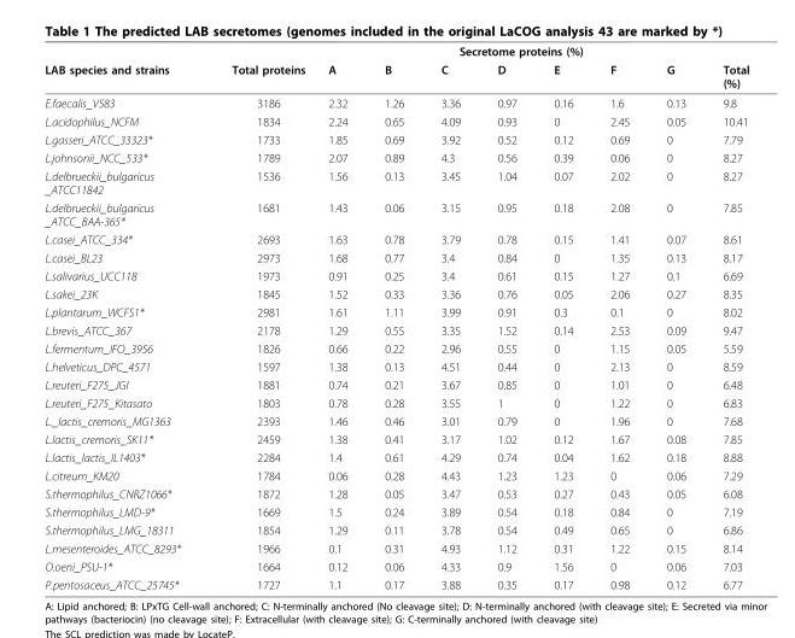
<table><thead><tr><td rowspan="2">LAB species and strains</td><td rowspan="2">Total proteins</td><td colspan="7">Secretome proteins (%)</td><td rowspan="2">Total (%)</td></tr><tr><td>A</td><td>B</td><td>C</td><td>D</td><td>E</td><td>F</td><td>G</td></tr></thead><tbody><tr><td>E.faecalis_V583</td><td>3186</td><td>2.32</td><td>1.26</td><td>3.36</td><td>0.97</td><td>0.16</td><td>1.6</td><td>0.13</td><td>9.8</td></tr><tr><td>L.acidophilus_NCFM</td><td>1834</td><td>2.24</td><td>0.65</td><td>4.09</td><td>0.93</td><td>0</td><td>2.45</td><td>0.05</td><td>10.41</td></tr><tr><td>L.gasseri_ATCC_33323*</td><td>1733</td><td>1.85</td><td>0.69</td><td>3.92</td><td>0.52</td><td>0.12</td><td>0.69</td><td>0</td><td>7.79</td></tr><tr><td>L.johnsonii_NCC_533*</td><td>1789</td><td>2.07</td><td>0.89</td><td>4.3</td><td>0.56</td><td>0.39</td><td>0.06</td><td>0</td><td>8.27</td></tr><tr><td>L.delbrueckii_bulgaricus _ATCC11842</td><td>1536</td><td>1.56</td><td>0.13</td><td>3.45</td><td>1.04</td><td>0.07</td><td>2.02</td><td>0</td><td>8.27</td></tr><tr><td>L.delbrueckii_bulgaricus _ATCC_BAA-365*</td><td>1681</td><td>1.43</td><td>0.06</td><td>3.15</td><td>0.95</td><td>0.18</td><td>2.08</td><td>0</td><td>7.85</td></tr><tr><td>L.casei_ATCC_334*</td><td>2693</td><td>1.63</td><td>0.78</td><td>3.79</td><td>0.78</td><td>0.15</td><td>1.41</td><td>0.07</td><td>8.61</td></tr><tr><td>L.casei_BL23</td><td>2973</td><td>1.68</td><td>0.77</td><td>3.4</td><td>0.84</td><td>0</td><td>1.35</td><td>0.13</td><td>8.17</td></tr><tr><td>L.salivarius_UCC118</td><td>1973</td><td>0.91</td><td>0.25</td><td>3.4</td><td>0.61</td><td>0.15</td><td>1.27</td><td>0.1</td><td>6.69</td></tr><tr><td>L.sakei_23K</td><td>1845</td><td>1.52</td><td>0.33</td><td>3.36</td><td>0.76</td><td>0.05</td><td>2.06</td><td>0.27</td><td>8.35</td></tr><tr><td>L.plantarum_WCFS1*</td><td>2981</td><td>1.61</td><td>1.11</td><td>3.99</td><td>0.91</td><td>0.3</td><td>0.1</td><td>0</td><td>8.02</td></tr><tr><td>L.brevis_ATCC_367</td><td>2178</td><td>1.29</td><td>0.55</td><td>3.35</td><td>1.52</td><td>0.14</td><td>2.53</td><td>0.09</td><td>9.47</td></tr><tr><td>L.fermentum_IFO_3956</td><td>1826</td><td>0.66</td><td>0.22</td><td>2.96</td><td>0.55</td><td>0</td><td>1.15</td><td>0.05</td><td>5.59</td></tr><tr><td>L.helveticus_DPC_4571</td><td>1597</td><td>1.38</td><td>0.13</td><td>4.51</td><td>0.44</td><td>0</td><td>2.13</td><td>0</td><td>8.59</td></tr><tr><td>L.reuteri_F275_JGI</td><td>1881</td><td>0.74</td><td>0.21</td><td>3.67</td><td>0.85</td><td>0</td><td>1.01</td><td>0</td><td>6.48</td></tr><tr><td>L.reuteri_F275_Kitasato</td><td>1803</td><td>0.78</td><td>0.28</td><td>3.55</td><td>1</td><td>0</td><td>1.22</td><td>0</td><td>6.83</td></tr><tr><td>L._lactis_cremoris_MG1363</td><td>2393</td><td>1.46</td><td>0.46</td><td>3.01</td><td>0.79</td><td>0</td><td>1.96</td><td>0</td><td>7.68</td></tr><tr><td>L.lactis_cremoris_SK11*</td><td>2459</td><td>1.38</td><td>0.41</td><td>3.17</td><td>1.02</td><td>0.12</td><td>1.67</td><td>0.08</td><td>7.85</td></tr><tr><td>L.lactis_lactis_IL1403*</td><td>2284</td><td>1.4</td><td>0.61</td><td>4.29</td><td>0.74</td><td>0.04</td><td>1.62</td><td>0.18</td><td>8.88</td></tr><tr><td>L.citreum_KM20</td><td>1784</td><td>0.06</td><td>0.28</td><td>4.43</td><td>1.23</td><td>1.23</td><td>0</td><td>0.06</td><td>7.29</td></tr><tr><td>S.thermophilus_CNRZ1066*</td><td>1872</td><td>1.28</td><td>0.05</td><td>3.47</td><td>0.53</td><td>0.27</td><td>0.43</td><td>0.05</td><td>6.08</td></tr><tr><td>S.thermophilus_LMD-9*</td><td>1669</td><td>1.5</td><td>0.24</td><td>3.89</td><td>0.54</td><td>0.18</td><td>0.84</td><td>0</td><td>7.19</td></tr><tr><td>S.thermophilus_LMG_18311</td><td>1854</td><td>1.29</td><td>0.11</td><td>3.78</td><td>0.54</td><td>0.49</td><td>0.65</td><td>0</td><td>6.86</td></tr><tr><td>L.mesenteroides_ATCC_8293*</td><td>1966</td><td>0.1</td><td>0.31</td><td>4.93</td><td>1.12</td><td>0.31</td><td>1.22</td><td>0.15</td><td>8.14</td></tr><tr><td>O.oeni_PSU-1*</td><td>1664</td><td>0.12</td><td>0.06</td><td>4.33</td><td>0.9</td><td>1.56</td><td>0</td><td>0.06</td><td>7.03</td></tr><tr><td>P.pentosaceus_ATCC_25745*</td><td>1727</td><td>1.1</td><td>0.17</td><td>3.88</td><td>0.35</td><td>0.17</td><td>0.98</td><td>0.12</td><td>6.77</td></tr></tbody></table>